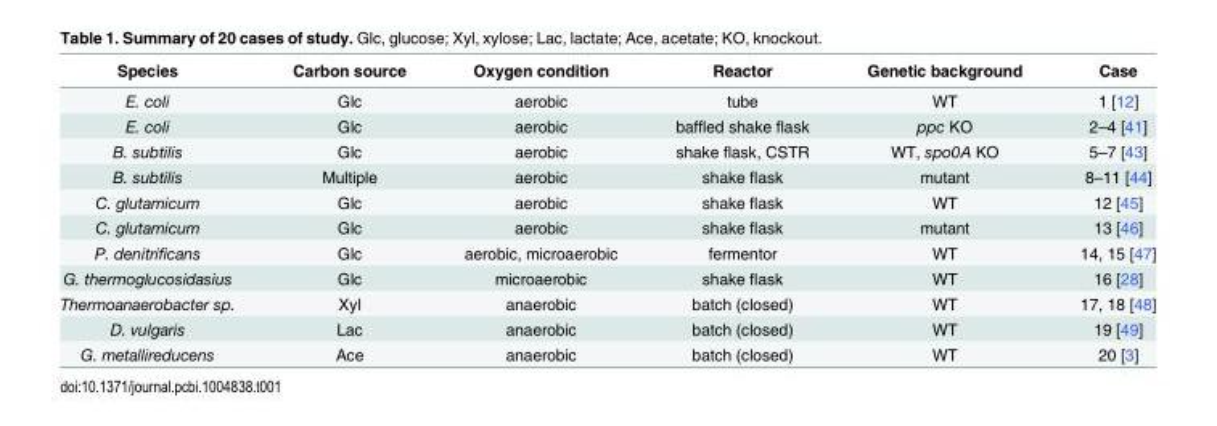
<table><thead><tr><td>Species</td><td>Carbon source</td><td>Oxygen condition</td><td>Reactor</td><td>Genetic background</td><td>Case</td></tr></thead><tbody><tr><td>E. coli</td><td>Glc</td><td>aerobic</td><td>tube</td><td>WT</td><td>1 [12]</td></tr><tr><td>E. coli</td><td>Glc</td><td>aerobic</td><td>baffled shake flask</td><td>ppc KO</td><td>2–4 [41]</td></tr><tr><td>B. subtilis</td><td>Glc</td><td>aerobic</td><td>shake flask, CSTR</td><td>WT, spo0A KO</td><td>5–7 [43]</td></tr><tr><td>B. subtilis</td><td>Multiple</td><td>aerobic</td><td>shake flask</td><td>mutant</td><td>8–11 [44]</td></tr><tr><td>C. glutamicum</td><td>Glc</td><td>aerobic</td><td>shake flask</td><td>WT</td><td>12 [45]</td></tr><tr><td>C. glutamicum</td><td>Glc</td><td>aerobic</td><td>shake flask</td><td>mutant</td><td>13 [46]</td></tr><tr><td>P. denitrificans</td><td>Glc</td><td>aerobic, microaerobic</td><td>fermentor</td><td>WT</td><td>14, 15 [47]</td></tr><tr><td>G. thermoglucosidasius</td><td>Glc</td><td>microaerobic</td><td>shake flask</td><td>WT</td><td>16 [28]</td></tr><tr><td>Thermoanaerobacter sp.</td><td>Xyl</td><td>anaerobic</td><td>batch (closed)</td><td>WT</td><td>17, 18 [48]</td></tr><tr><td>D. vulgaris</td><td>Lac</td><td>anaerobic</td><td>batch (closed)</td><td>WT</td><td>19 [49]</td></tr><tr><td>G. metallireducens</td><td>Ace</td><td>anaerobic</td><td>batch (closed)</td><td>WT</td><td>20 [3]</td></tr></tbody></table>